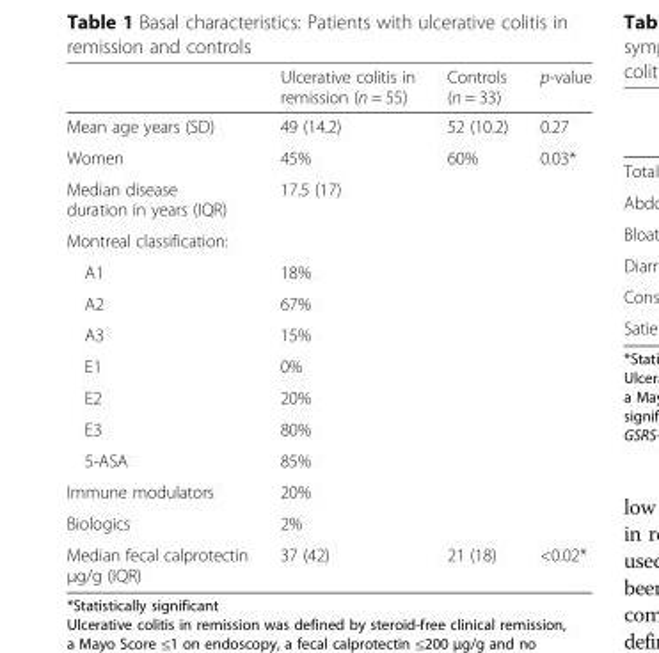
<table><thead><tr><td></td><td>Ulcerative colitis in remission (n = 55)</td><td>Controls (n = 33)</td><td>p-value</td></tr></thead><tbody><tr><td>Mean age years (SD)</td><td>49 (14.2)</td><td>52 (10.2)</td><td>0.27</td></tr><tr><td>Women</td><td>45%</td><td>60%</td><td>0.03*</td></tr><tr><td>Median disease duration in years (IQR)</td><td>17.5 (17)</td><td></td><td></td></tr><tr><td colspan="4">Montreal classification:</td></tr><tr><td>A1</td><td>18%</td><td></td><td></td></tr><tr><td>A2</td><td>67%</td><td></td><td></td></tr><tr><td>A3</td><td>15%</td><td></td><td></td></tr><tr><td>E1</td><td>0%</td><td></td><td></td></tr><tr><td>E2</td><td>20%</td><td></td><td></td></tr><tr><td>E3</td><td>80%</td><td></td><td></td></tr><tr><td>5-ASA</td><td>85%</td><td></td><td></td></tr><tr><td>Immune modulators</td><td>20%</td><td></td><td></td></tr><tr><td>Biologics</td><td>2%</td><td></td><td></td></tr><tr><td>Median fecal calprotectin μg/g (IQR)</td><td>37 (42)</td><td>21 (18)</td><td>&lt;0.02*</td></tr></tbody></table>